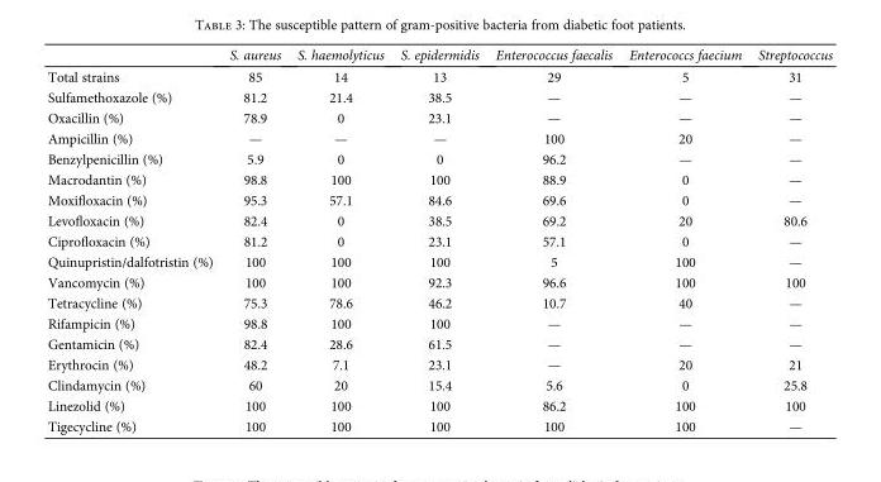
<table><thead><tr><td></td><td>S. aureus</td><td>S. haemolyticus</td><td>S. epidermidis</td><td>Enterococcus faecalis</td><td>Enterococcs faecium</td><td>Streptococcus</td></tr></thead><tbody><tr><td>Total strains</td><td>85</td><td>14</td><td>13</td><td>29</td><td>5</td><td>31</td></tr><tr><td>Sulfamethoxazole (%)</td><td>81.2</td><td>21.4</td><td>38.5</td><td>—</td><td>—</td><td>—</td></tr><tr><td>Oxacillin (%)</td><td>78.9</td><td>0</td><td>23.1</td><td>—</td><td>—</td><td>—</td></tr><tr><td>Ampicillin (%)</td><td>—</td><td>—</td><td>—</td><td>100</td><td>20</td><td>—</td></tr><tr><td>Benzylpenicillin (%)</td><td>5.9</td><td>0</td><td>0</td><td>96.2</td><td>—</td><td>—</td></tr><tr><td>Macrodantin (%)</td><td>98.8</td><td>100</td><td>100</td><td>88.9</td><td>0</td><td>—</td></tr><tr><td>Moxifloxacin (%)</td><td>95.3</td><td>57.1</td><td>84.6</td><td>69.6</td><td>0</td><td>—</td></tr><tr><td>Levofloxacin (%)</td><td>82.4</td><td>0</td><td>38.5</td><td>69.2</td><td>20</td><td>80.6</td></tr><tr><td>Ciprofloxacin (%)</td><td>81.2</td><td>0</td><td>23.1</td><td>57.1</td><td>0</td><td>—</td></tr><tr><td>Quinupristin/dalfotristin (%)</td><td>100</td><td>100</td><td>100</td><td>5</td><td>100</td><td>—</td></tr><tr><td>Vancomycin (%)</td><td>100</td><td>100</td><td>92.3</td><td>96.6</td><td>100</td><td>100</td></tr><tr><td>Tetracycline (%)</td><td>75.3</td><td>78.6</td><td>46.2</td><td>10.7</td><td>40</td><td>—</td></tr><tr><td>Rifampicin (%)</td><td>98.8</td><td>100</td><td>100</td><td>—</td><td>—</td><td>—</td></tr><tr><td>Gentamicin (%)</td><td>82.4</td><td>28.6</td><td>61.5</td><td>—</td><td>—</td><td>—</td></tr><tr><td>Erythrocin (%)</td><td>48.2</td><td>7.1</td><td>23.1</td><td>—</td><td>20</td><td>21</td></tr><tr><td>Clindamycin (%)</td><td>60</td><td>20</td><td>15.4</td><td>5.6</td><td>0</td><td>25.8</td></tr><tr><td>Linezolid (%)</td><td>100</td><td>100</td><td>100</td><td>86.2</td><td>100</td><td>100</td></tr><tr><td>Tigecycline (%)</td><td>100</td><td>100</td><td>100</td><td>100</td><td>100</td><td>—</td></tr></tbody></table>